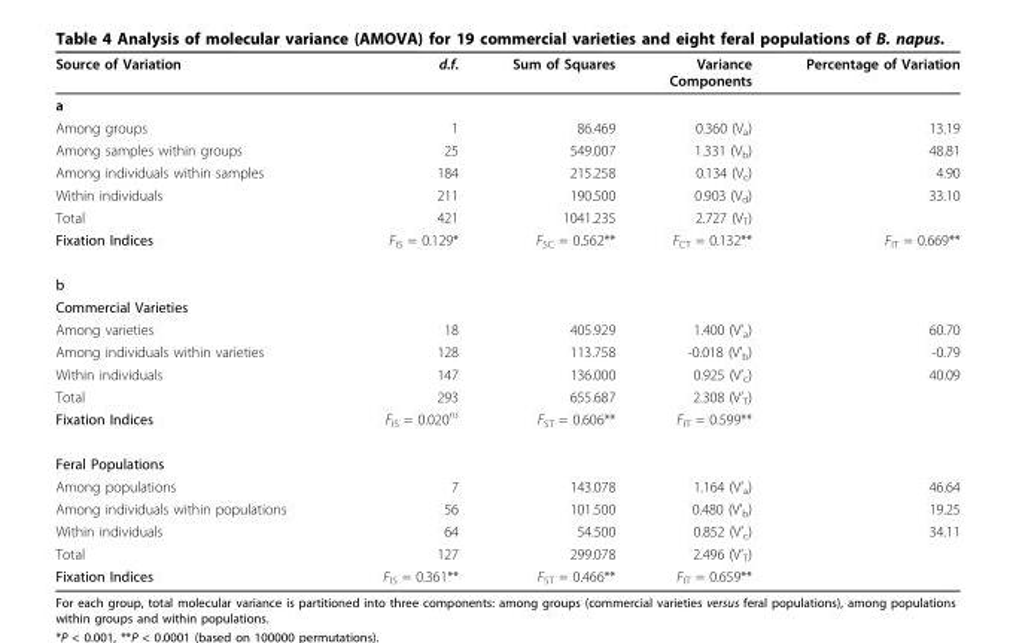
<table><thead><tr><td>Source of Variation</td><td>d.f.</td><td>Sum of Squares</td><td>Variance Components</td><td>Percentage of Variation</td></tr></thead><tbody><tr><td colspan="5">a</td></tr><tr><td>Among groups</td><td>1</td><td>86.469</td><td>0.360 (V<sub>a</sub>)</td><td>13.19</td></tr><tr><td>Among samples within groups</td><td>25</td><td>549.007</td><td>1.331 (V<sub>b</sub>)</td><td>48.81</td></tr><tr><td>Among individuals within samples</td><td>184</td><td>215.258</td><td>0.134 (V<sub>c</sub>)</td><td>4.90</td></tr><tr><td>Within individuals</td><td>211</td><td>190.500</td><td>0.903 (V<sub>d</sub>)</td><td>33.10</td></tr><tr><td>Total</td><td>421</td><td>1041.235</td><td>2.727 (V<sub>T</sub>)</td><td></td></tr><tr><td>Fixation Indices</td><td>F<sub>IS</sub> = 0.129*</td><td>F<sub>SC</sub> = 0.562**</td><td>F<sub>CT</sub> = 0.132**</td><td>F<sub>IT</sub> = 0.669**</td></tr><tr><td colspan="5">b</td></tr><tr><td colspan="5">Commercial Varieties</td></tr><tr><td>Among varieties</td><td>18</td><td>405.929</td><td>1.400 (V’<sub>a</sub>)</td><td>60.70</td></tr><tr><td>Among individuals within varieties</td><td>128</td><td>113.758</td><td>-0.018 (V’<sub>b</sub>)</td><td>-0.79</td></tr><tr><td>Within individuals</td><td>147</td><td>136.000</td><td>0.925 (V’<sub>c</sub>)</td><td>40.09</td></tr><tr><td>Total</td><td>293</td><td>655.687</td><td>2.308 (V’<sub>T</sub>)</td><td></td></tr><tr><td>Fixation Indices</td><td>F<sub>IS</sub> = 0.020<sup>ns</sup></td><td>F<sub>ST</sub> = 0.606**</td><td>F<sub>IT</sub> = 0.599**</td><td></td></tr><tr><td colspan="5">Feral Populations</td></tr><tr><td>Among populations</td><td>7</td><td>143.078</td><td>1.164 (V’<sub>a</sub>)</td><td>46.64</td></tr><tr><td>Among individuals within populations</td><td>56</td><td>101.500</td><td>0.480 (V’<sub>b</sub>)</td><td>19.25</td></tr><tr><td>Within individuals</td><td>64</td><td>54.500</td><td>0.852 (V’<sub>c</sub>)</td><td>34.11</td></tr><tr><td>Total</td><td>127</td><td>299.078</td><td>2.496 (V’<sub>T</sub>)</td><td></td></tr><tr><td>Fixation Indices</td><td>F<sub>IS</sub> = 0.361**</td><td>F<sub>ST</sub> = 0.466**</td><td>F<sub>IT</sub> = 0.659**</td><td></td></tr></tbody></table>